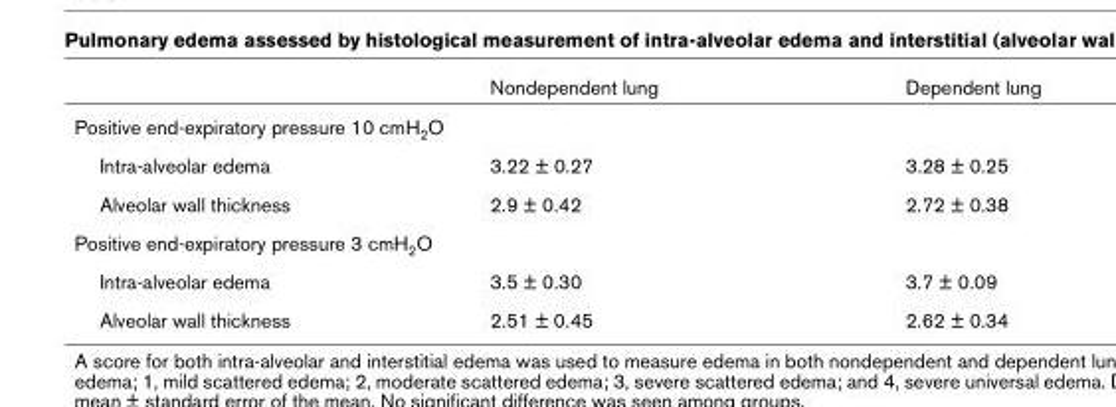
<table><thead><tr><td></td><td>Nondependent lung</td><td>Dependent lung</td></tr></thead><tbody><tr><td colspan="3">Positive end-expiratory pressure 10 cmH<sub>2</sub>O</td></tr><tr><td>Intra-alveolar edema</td><td>3.22 ± 0.27</td><td>3.28 ± 0.25</td></tr><tr><td>Alveolar wall thickness</td><td>2.9 ± 0.42</td><td>2.72 ± 0.38</td></tr><tr><td colspan="3">Positive end-expiratory pressure 3 cmH<sub>2</sub>O</td></tr><tr><td>Intra-alveolar edema</td><td>3.5 ± 0.30</td><td>3.7 ± 0.09</td></tr><tr><td>Alveolar wall thickness</td><td>2.51 ± 0.45</td><td>2.62 ± 0.34</td></tr></tbody></table>